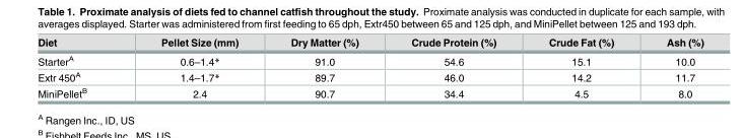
<table><thead><tr><td>Diet</td><td>Pellet Size (mm)</td><td>Dry Matter (%)</td><td>Crude Protein (%)</td><td>Crude Fat (%)</td><td>Ash (%)</td></tr></thead><tbody><tr><td>Starter<sup>A</sup></td><td>0.6–1.4*</td><td>91.0</td><td>54.6</td><td>15.1</td><td>10.0</td></tr><tr><td>Extr 450<sup>A</sup></td><td>1.4–1.7*</td><td>89.7</td><td>46.0</td><td>14.2</td><td>11.7</td></tr><tr><td>MiniPellet<sup>B</sup></td><td>2.4</td><td>90.7</td><td>34.4</td><td>4.5</td><td>8.0</td></tr></tbody></table>